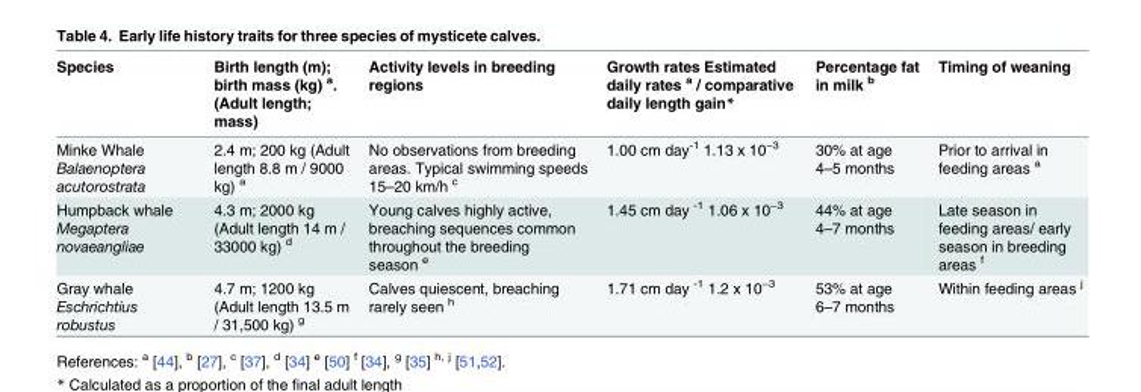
<table><thead><tr><td>Species</td><td>Birth length (m); birth mass (kg) <sup>a</sup>. (Adult length; mass)</td><td>Activity levels in breeding regions</td><td>Growth rates Estimated daily rates <sup>a</sup> / comparative daily length gain*</td><td>Percentage fat in milk <sup>b</sup></td><td>Timing of weaning</td></tr></thead><tbody><tr><td>Minke Whale Balaenoptera acutorostrata</td><td>2.4 m; 200 kg (Adult length 8.8 m / 9000 kg) <sup>a</sup></td><td>No observations from breeding areas. Typical swimming speeds 15–20 km/h <sup>c</sup></td><td>1.00 cm day<sup>-1</sup> 1.13 x 10<sup>−3</sup></td><td>30% at age 4–5 months</td><td>Prior to arrival in feeding areas <sup>a</sup></td></tr><tr><td>Humpback whale Megaptera novaeangliae</td><td>4.3 m; 2000 kg (Adult length 14 m / 33000 kg) <sup>d</sup></td><td>Young calves highly active, breaching sequences common throughout the breeding season <sup>e</sup></td><td>1.45 cm day <sup>-1</sup> 1.06 x 10<sup>−3</sup></td><td>44% at age 4–7 months</td><td>Late season in feeding areas/ early season in breeding areas <sup>f</sup></td></tr><tr><td>Gray whale Eschrichtius robustus</td><td>4.7 m; 1200 kg (Adult length 13.5 m / 31,500 kg) <sup>g</sup></td><td>Calves quiescent, breaching rarely seen <sup>h</sup></td><td>1.71 cm day <sup>-1</sup> 1.2 x 10<sup>−3</sup></td><td>53% at age 6–7 months</td><td>Within feeding areas <sup>j</sup></td></tr></tbody></table>